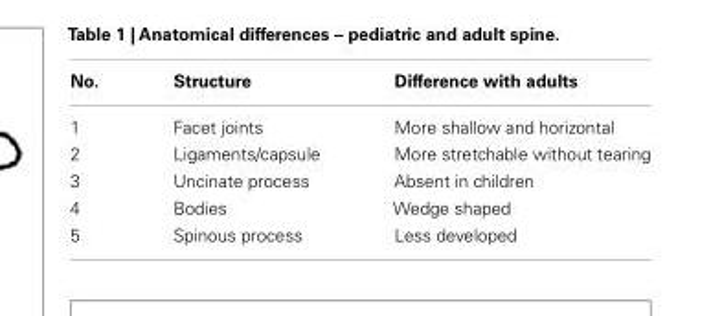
<table><thead><tr><td>No.</td><td>Structure</td><td>Difference with adults</td></tr></thead><tbody><tr><td>1</td><td>Facet joints</td><td>More shallow and horizontal</td></tr><tr><td>2</td><td>Ligaments/capsule</td><td>More stretchable without tearing</td></tr><tr><td>3</td><td>Uncinate process</td><td>Absent in children</td></tr><tr><td>4</td><td>Bodies</td><td>Wedge shaped</td></tr><tr><td>5</td><td>Spinous process</td><td>Less developed</td></tr></tbody></table>